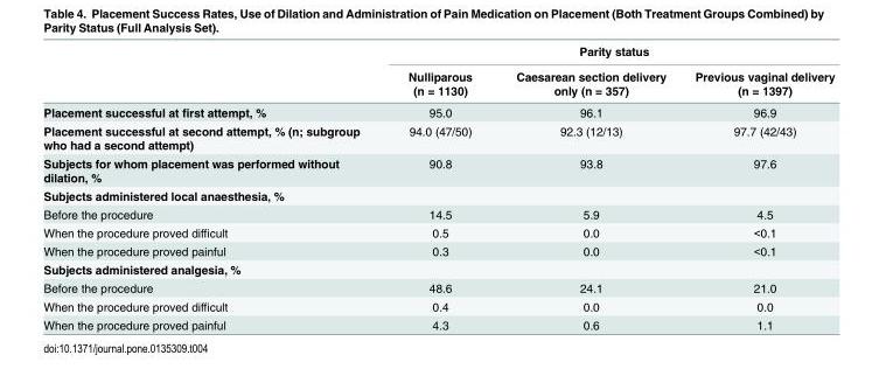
<table><thead><tr><td rowspan="2"></td><td colspan="3">Parity status</td></tr><tr><td>Nulliparous (n = 1130)</td><td>Caesarean section delivery only (n = 357)</td><td>Previous vaginal delivery (n = 1397)</td></tr></thead><tbody><tr><td>Placement successful at first attempt, %</td><td>95.0</td><td>96.1</td><td>96.9</td></tr><tr><td>Placement successful at second attempt, % (n; subgroup who had a second attempt)</td><td>94.0 (47/50)</td><td>92.3 (12/13)</td><td>97.7 (42/43)</td></tr><tr><td>Subjects for whom placement was performed without dilation, %</td><td>90.8</td><td>93.8</td><td>97.6</td></tr><tr><td colspan="4">Subjects administered local anaesthesia, %</td></tr><tr><td>Before the procedure</td><td>14.5</td><td>5.9</td><td>4.5</td></tr><tr><td>When the procedure proved difficult</td><td>0.5</td><td>0.0</td><td>&lt;0.1</td></tr><tr><td>When the procedure proved painful</td><td>0.3</td><td>0.0</td><td>&lt;0.1</td></tr><tr><td colspan="4">Subjects administered analgesia, %</td></tr><tr><td>Before the procedure</td><td>48.6</td><td>24.1</td><td>21.0</td></tr><tr><td>When the procedure proved difficult</td><td>0.4</td><td>0.0</td><td>0.0</td></tr><tr><td>When the procedure proved painful</td><td>4.3</td><td>0.6</td><td>1.1</td></tr></tbody></table>